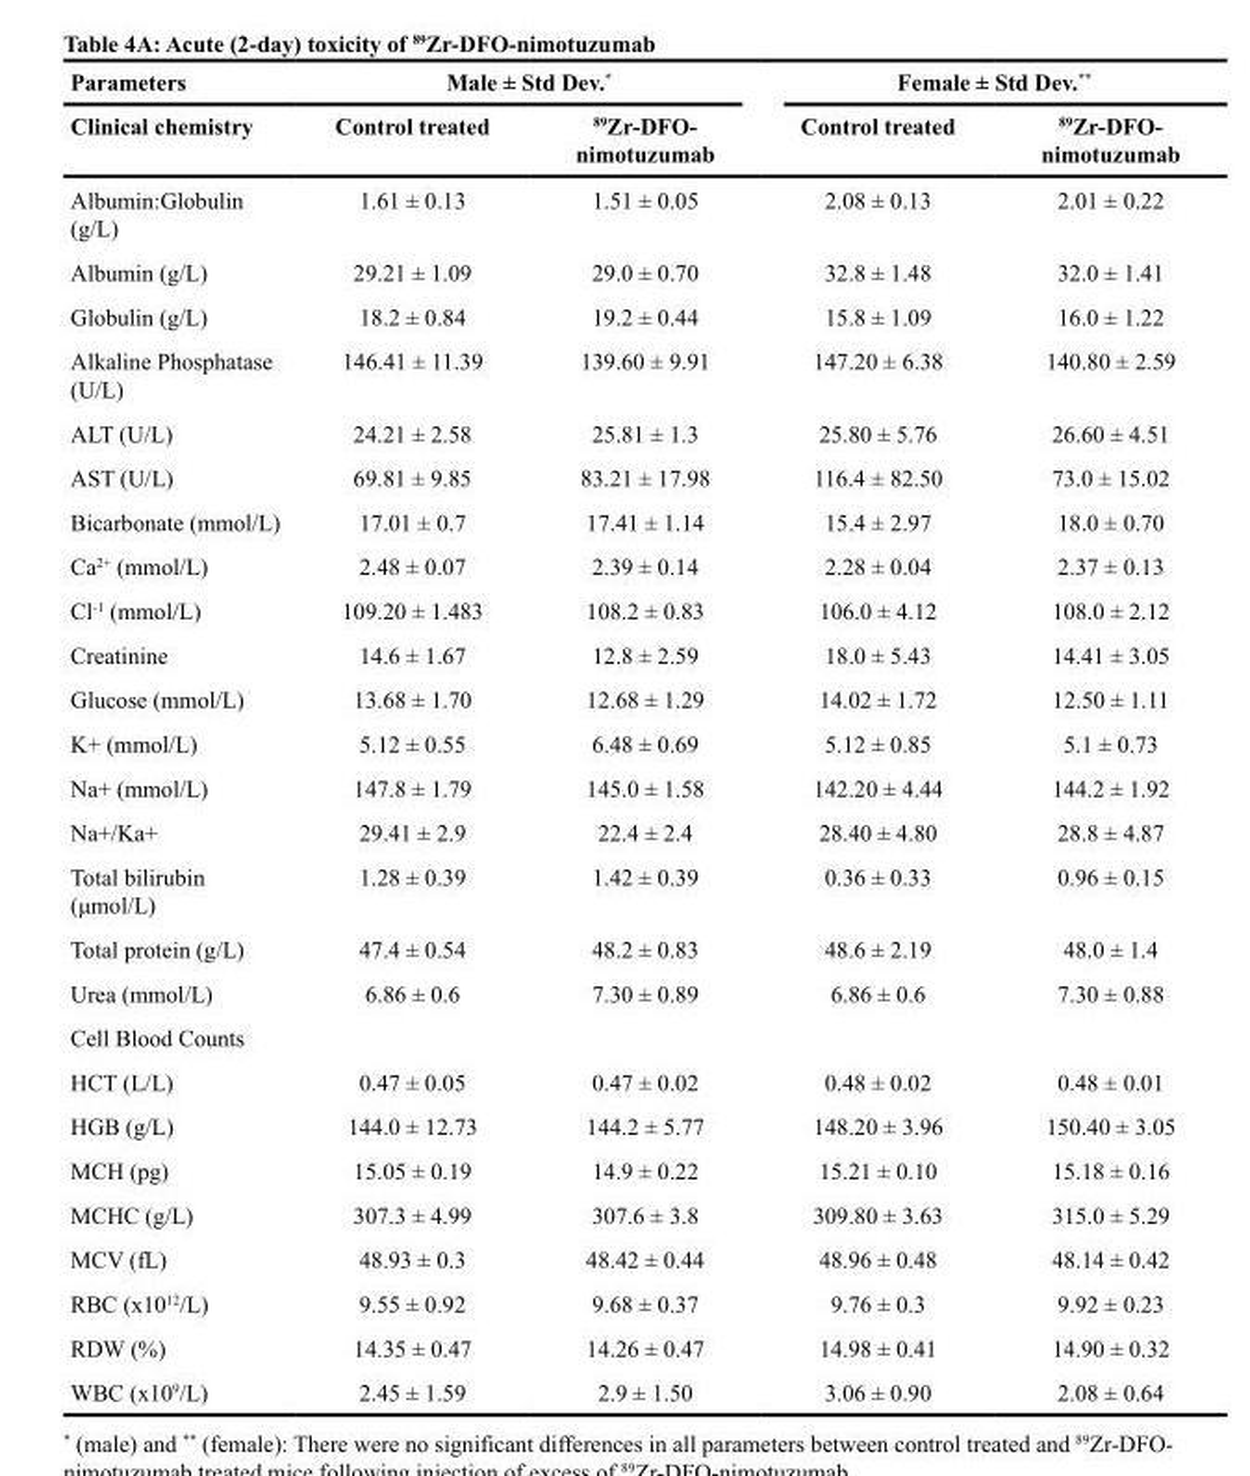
<table><thead><tr><td rowspan="2">Parameters Clinical chemistry</td><td colspan="2">Male ± Std Dev.*</td><td colspan="2">Female ± Std Dev.**</td></tr><tr><td>Control treated</td><td><sup>89</sup>Zr-DFO- nimotuzumab</td><td>Control treated</td><td><sup>89</sup>Zr-DFO- nimotuzumab</td></tr></thead><tbody><tr><td>Albumin:Globulin (g/L)</td><td>1.61 ± 0.13</td><td>1.51 ± 0.05</td><td>2.08 ± 0.13</td><td>2.01 ± 0.22</td></tr><tr><td>Albumin (g/L)</td><td>29.21 ± 1.09</td><td>29.0 ± 0.70</td><td>32.8 ± 1.48</td><td>32.0 ± 1.41</td></tr><tr><td>Globulin (g/L)</td><td>18.2 ± 0.84</td><td>19.2 ± 0.44</td><td>15.8 ± 1.09</td><td>16.0 ± 1.22</td></tr><tr><td>Alkaline Phosphatase (U/L)</td><td>146.41 ± 11.39</td><td>139.60 ± 9.91</td><td>147.20 ± 6.38</td><td>140.80 ± 2.59</td></tr><tr><td>ALT (U/L)</td><td>24.21 ± 2.58</td><td>25.81 ± 1.3</td><td>25.80 ± 5.76</td><td>26.60 ± 4.51</td></tr><tr><td>AST (U/L)</td><td>69.81 ± 9.85</td><td>83.21 ± 17.98</td><td>116.4 ± 82.50</td><td>73.0 ± 15.02</td></tr><tr><td>Bicarbonate (mmol/L)</td><td>17.01 ± 0.7</td><td>17.41 ± 1.14</td><td>15.4 ± 2.97</td><td>18.0 ± 0.70</td></tr><tr><td>Ca<sup>2+</sup> (mmol/L)</td><td>2.48 ± 0.07</td><td>2.39 ± 0.14</td><td>2.28 ± 0.04</td><td>2.37 ± 0.13</td></tr><tr><td>Cl<sup>-1</sup> (mmol/L)</td><td>109.20 ± 1.483</td><td>108.2 ± 0.83</td><td>106.0 ± 4.12</td><td>108.0 ± 2.12</td></tr><tr><td>Creatinine</td><td>14.6 ± 1.67</td><td>12.8 ± 2.59</td><td>18.0 ± 5.43</td><td>14.41 ± 3.05</td></tr><tr><td>Glucose (mmol/L)</td><td>13.68 ± 1.70</td><td>12.68 ± 1.29</td><td>14.02 ± 1.72</td><td>12.50 ± 1.11</td></tr><tr><td>K+ (mmol/L)</td><td>5.12 ± 0.55</td><td>6.48 ± 0.69</td><td>5.12 ± 0.85</td><td>5.1 ± 0.73</td></tr><tr><td>Na+ (mmol/L)</td><td>147.8 ± 1.79</td><td>145.0 ± 1.58</td><td>142.20 ± 4.44</td><td>144.2 ± 1.92</td></tr><tr><td>Na+/Ka+</td><td>29.41 ± 2.9</td><td>22.4 ± 2.4</td><td>28.40 ± 4.80</td><td>28.8 ± 4.87</td></tr><tr><td>Total bilirubin (μmol/L)</td><td>1.28 ± 0.39</td><td>1.42 ± 0.39</td><td>0.36 ± 0.33</td><td>0.96 ± 0.15</td></tr><tr><td>Total protein (g/L)</td><td>47.4 ± 0.54</td><td>48.2 ± 0.83</td><td>48.6 ± 2.19</td><td>48.0 ± 1.4</td></tr><tr><td>Urea (mmol/L)</td><td>6.86 ± 0.6</td><td>7.30 ± 0.89</td><td>6.86 ± 0.6</td><td>7.30 ± 0.88</td></tr><tr><td colspan="5">Cell Blood Counts</td></tr><tr><td>HCT (L/L)</td><td>0.47 ± 0.05</td><td>0.47 ± 0.02</td><td>0.48 ± 0.02</td><td>0.48 ± 0.01</td></tr><tr><td>HGB (g/L)</td><td>144.0 ± 12.73</td><td>144.2 ± 5.77</td><td>148.20 ± 3.96</td><td>150.40 ± 3.05</td></tr><tr><td>MCH (pg)</td><td>15.05 ± 0.19</td><td>14.9 ± 0.22</td><td>15.21 ± 0.10</td><td>15.18 ± 0.16</td></tr><tr><td>MCHC (g/L)</td><td>307.3 ± 4.99</td><td>307.6 ± 3.8</td><td>309.80 ± 3.63</td><td>315.0 ± 5.29</td></tr><tr><td>MCV (fL)</td><td>48.93 ± 0.3</td><td>48.42 ± 0.44</td><td>48.96 ± 0.48</td><td>48.14 ± 0.42</td></tr><tr><td>RBC (x10<sup>12</sup>/L)</td><td>9.55 ± 0.92</td><td>9.68 ± 0.37</td><td>9.76 ± 0.3</td><td>9.92 ± 0.23</td></tr><tr><td>RDW (%)</td><td>14.35 ± 0.47</td><td>14.26 ± 0.47</td><td>14.98 ± 0.41</td><td>14.90 ± 0.32</td></tr><tr><td>WBC (x10<sup>9</sup>/L)</td><td>2.45 ± 1.59</td><td>2.9 ± 1.50</td><td>3.06 ± 0.90</td><td>2.08 ± 0.64</td></tr></tbody></table>